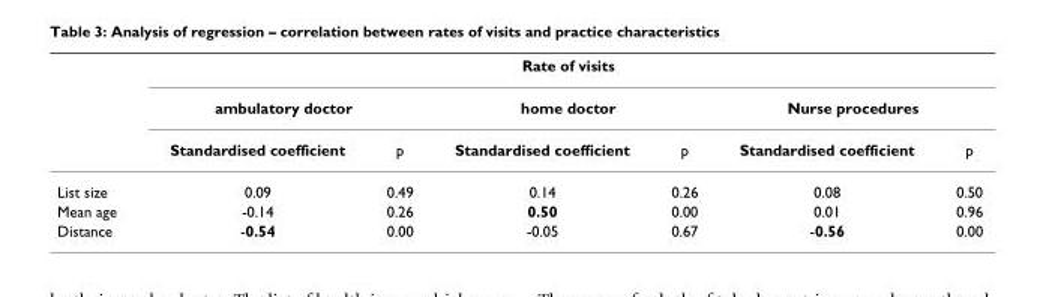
<table><thead><tr><td rowspan="3"></td><td colspan="6">Rate of visits</td></tr><tr><td colspan="2">ambulatory doctor</td><td colspan="2">home doctor</td><td colspan="2">Nurse procedures</td></tr><tr><td>Standardised coefficient</td><td>p</td><td>Standardised coefficient</td><td>p</td><td>Standardised coefficient</td><td>p</td></tr></thead><tbody><tr><td>List size</td><td>0.09</td><td>0.49</td><td>0.14</td><td>0.26</td><td>0.08</td><td>0.50</td></tr><tr><td>Mean age</td><td>-0.14</td><td>0.26</td><td>0.50</td><td>0.00</td><td>0.01</td><td>0.96</td></tr><tr><td>Distance</td><td>-0.54</td><td>0.00</td><td>-0.05</td><td>0.67</td><td>-0.56</td><td>0.00</td></tr></tbody></table>